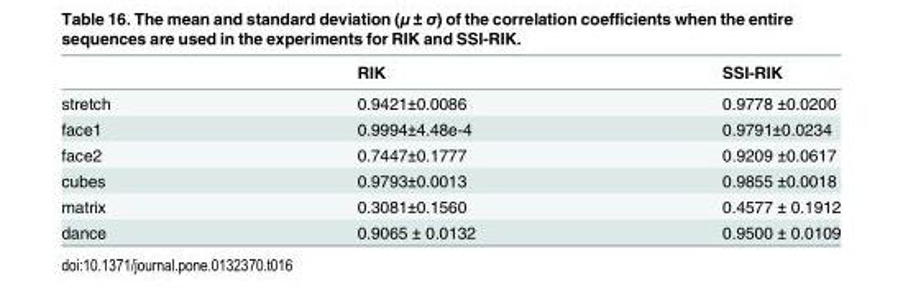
<table><thead><tr><td></td><td>RIK</td><td>SSI-RIK</td></tr></thead><tbody><tr><td>stretch</td><td>0.9421±0.0086</td><td>0.9778 ±0.0200</td></tr><tr><td>face1</td><td>0.9994±4.48e-4</td><td>0.9791±0.0234</td></tr><tr><td>face2</td><td>0.7447±0.1777</td><td>0.9209 ±0.0617</td></tr><tr><td>cubes</td><td>0.9793±0.0013</td><td>0.9855 ±0.0018</td></tr><tr><td>matrix</td><td>0.3081±0.1560</td><td>0.4577 ± 0.1912</td></tr><tr><td>dance</td><td>0.9065 ± 0.0132</td><td>0.9500 ± 0.0109</td></tr></tbody></table>